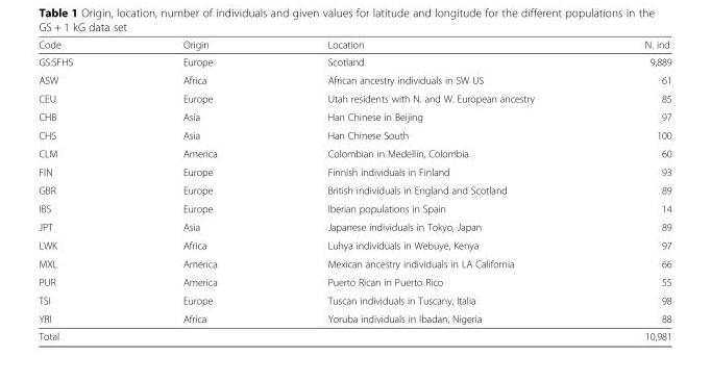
<table><thead><tr><td>Code</td><td>Origin</td><td>Location</td><td>N. ind</td></tr></thead><tbody><tr><td>GS:SFHS</td><td>Europe</td><td>Scotland</td><td>9,889</td></tr><tr><td>ASW</td><td>Africa</td><td>African ancestry individuals in SW US</td><td>61</td></tr><tr><td>CEU</td><td>Europe</td><td>Utah residents with N. and W. European ancestry</td><td>85</td></tr><tr><td>CHB</td><td>Asia</td><td>Han Chinese in Beijing</td><td>97</td></tr><tr><td>CHS</td><td>Asia</td><td>Han Chinese South</td><td>100</td></tr><tr><td>CLM</td><td>America</td><td>Colombian in Medellin, Colombia</td><td>60</td></tr><tr><td>FIN</td><td>Europe</td><td>Finnish individuals in Finland</td><td>93</td></tr><tr><td>GBR</td><td>Europe</td><td>British individuals in England and Scotland</td><td>89</td></tr><tr><td>IBS</td><td>Europe</td><td>Iberian populations in Spain</td><td>14</td></tr><tr><td>JPT</td><td>Asia</td><td>Japanese individuals in Tokyo, Japan</td><td>89</td></tr><tr><td>LWK</td><td>Africa</td><td>Luhya individuals in Webuye, Kenya</td><td>97</td></tr><tr><td>MXL</td><td>America</td><td>Mexican ancestry individuals in LA California</td><td>66</td></tr><tr><td>PUR</td><td>America</td><td>Puerto Rican in Puerto Rico</td><td>55</td></tr><tr><td>TSI</td><td>Europe</td><td>Tuscan individuals in Tuscany, Italia</td><td>98</td></tr><tr><td>YRI</td><td>Africa</td><td>Yoruba individuals in Ibadan, Nigeria</td><td>88</td></tr><tr><td>Total</td><td></td><td></td><td>10,981</td></tr></tbody></table>